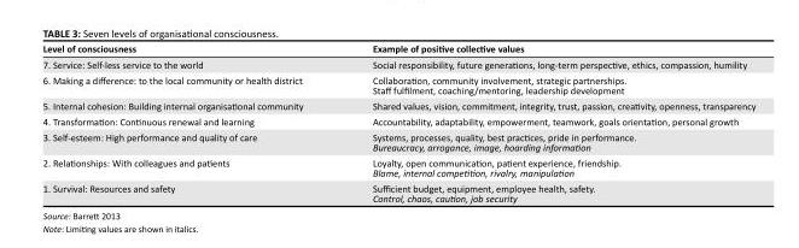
<table><thead><tr><td>Level of consciousness</td><td>Example of positive collective values</td></tr></thead><tbody><tr><td>7. Service: Self-less service to the world</td><td>Social responsibility, future generations, long-term perspective, ethics, compassion, humility</td></tr><tr><td>6. Making a difference: to the local community or health district</td><td>Collaboration, community involvement, strategic partnerships. Staff fulfilment, coaching/mentoring, leadership development</td></tr><tr><td>5. Internal cohesion: Building internal organisational community</td><td>Shared values, vision, commitment, integrity, trust, passion, creativity, openness, transparency</td></tr><tr><td>4. Transformation: Continuous renewal and learning</td><td>Accountability, adaptability, empowerment, teamwork, goals orientation, personal growth</td></tr><tr><td>3. Self-esteem: High performance and quality of care</td><td>Systems, processes, quality, best practices, pride in performance. Bureaucracy, arrogance, image, hoarding information</td></tr><tr><td>2. Relationships: With colleagues and patients</td><td>Loyalty, open communication, patient experience, friendship. Blame, internal competition, rivalry, manipulation</td></tr><tr><td>1. Survival: Resources and safety</td><td>Sufficient budget, equipment, employee health, safety. Control, chaos, caution, job security</td></tr></tbody></table>